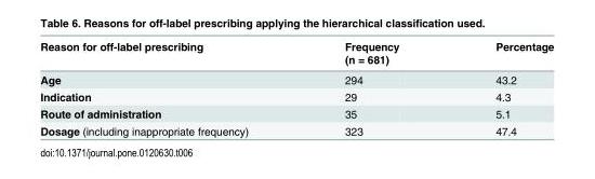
<table><thead><tr><td rowspan="2">Reason for off-label prescribing</td><td rowspan="2">Frequency (n = 681)</td><td rowspan="2">Percentage</td></tr><tr></tr></thead><tbody><tr><td>Age</td><td>294</td><td>43.2</td></tr><tr><td>Indication</td><td>29</td><td>4.3</td></tr><tr><td>Route of administration</td><td>35</td><td>5.1</td></tr><tr><td>Dosage (including inappropriate frequency)</td><td>323</td><td>47.4</td></tr></tbody></table>